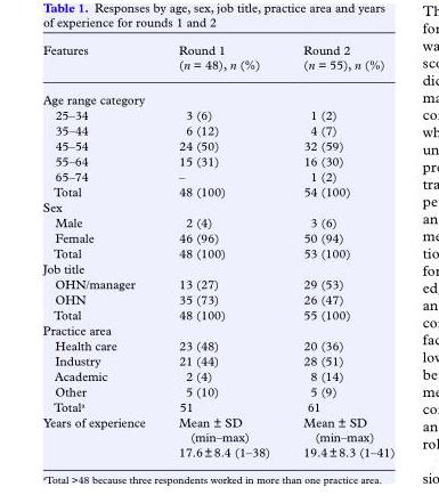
<table><thead><tr><td>Features</td><td>Round 1 (n = 48), n (%)</td><td>Round 2 (n = 55), n (%)</td></tr></thead><tbody><tr><td colspan="3">Age range category</td></tr><tr><td>25–34</td><td>3 (6)</td><td>1 (2)</td></tr><tr><td>35–44</td><td>6 (12)</td><td>4 (7)</td></tr><tr><td>45–54</td><td>24 (50)</td><td>32 (59)</td></tr><tr><td>55–64</td><td>15 (31)</td><td>16 (30)</td></tr><tr><td>65–74</td><td>–</td><td>1 (2)</td></tr><tr><td>Total</td><td>48 (100)</td><td>54 (100)</td></tr><tr><td colspan="3">Sex</td></tr><tr><td>Male</td><td>2 (4)</td><td>3 (6)</td></tr><tr><td>Female</td><td>46 (96)</td><td>50 (94)</td></tr><tr><td>Total</td><td>48 (100)</td><td>53 (100)</td></tr><tr><td colspan="3">Job title</td></tr><tr><td>OHN/manager</td><td>13 (27)</td><td>29 (53)</td></tr><tr><td>OHN</td><td>35 (73)</td><td>26 (47)</td></tr><tr><td>Total</td><td>48 (100)</td><td>55 (100)</td></tr><tr><td colspan="3">Practice area</td></tr><tr><td>Health care</td><td>23 (48)</td><td>20 (36)</td></tr><tr><td>Industry</td><td>21 (44)</td><td>28 (51)</td></tr><tr><td>Academic</td><td>2 (4)</td><td>8 (14)</td></tr><tr><td>Other</td><td>5 (10)</td><td>5 (9)</td></tr><tr><td>Total<sup>a</sup></td><td>51</td><td>61</td></tr><tr><td rowspan="2">Years of experience</td><td>Mean ± SD (min–max)</td><td>Mean ± SD (min–max)</td></tr><tr><td>17.6 ± 8.4 (1–38)</td><td>19.4 ± 8.3 (1–41)</td></tr></tbody></table>